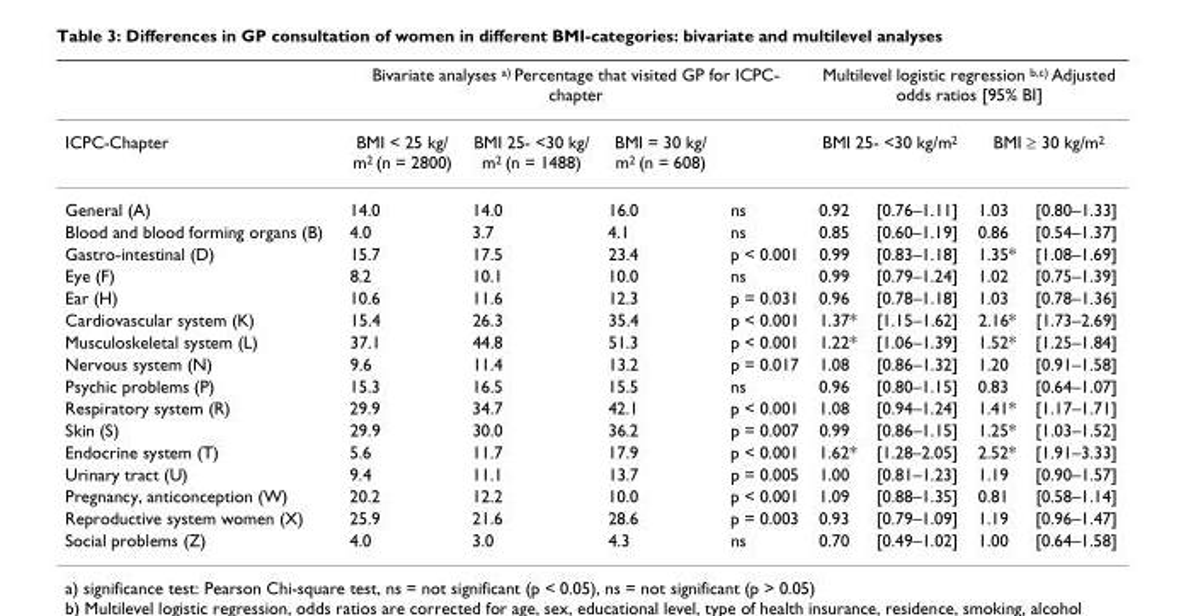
<table><thead><tr><td rowspan="3">ICPC-Chapter General (A)</td><td colspan="4">Bivariate analyses a) Percentage that visited GP for ICPC- chapter</td><td colspan="4">Multilevel logistic regression b,c) Adjusted odds ratios [95% BI]</td></tr><tr><td rowspan="2">BMI &lt; 25 kg/ m2 (n = 2800) 14.0</td><td rowspan="2">BMI 25- &lt;30 kg/ m2 (n = 1488) 14.0</td><td rowspan="2">BMI = 30 kg/ m2 (n = 608) 16.0</td><td rowspan="2">ns</td><td colspan="2">BMI 25- &lt;30 kg/m2</td><td colspan="2">BMI ≥ 30 kg/m2</td></tr><tr><td>0.92</td><td>[0.76–1.11]</td><td>1.03</td><td>[0.80–1.33]</td></tr></thead><tbody><tr><td>Blood and blood forming organs (B)</td><td>4.0</td><td>3.7</td><td>4.1</td><td>ns</td><td>0.85</td><td>[0.60–1.19]</td><td>0.86</td><td>[0.54–1.37]</td></tr><tr><td>Gastro-intestinal (D)</td><td>15.7</td><td>17.5</td><td>23.4</td><td>p &lt; 0.001</td><td>0.99</td><td>[0.83–1.18]</td><td>1.35*</td><td>[1.08–1.69]</td></tr><tr><td>Eye (F)</td><td>8.2</td><td>10.1</td><td>10.0</td><td>ns</td><td>0.99</td><td>[0.79–1.24]</td><td>1.02</td><td>[0.75–1.39]</td></tr><tr><td>Ear (H)</td><td>10.6</td><td>11.6</td><td>12.3</td><td>p = 0.031</td><td>0.96</td><td>[0.78–1.18]</td><td>1.03</td><td>[0.78–1.36]</td></tr><tr><td>Cardiovascular system (K)</td><td>15.4</td><td>26.3</td><td>35.4</td><td>p &lt; 0.001</td><td>1.37*</td><td>[1.15–1.62]</td><td>2.16*</td><td>[1.73–2.69]</td></tr><tr><td>Musculoskeletal system (L)</td><td>37.1</td><td>44.8</td><td>51.3</td><td>p &lt; 0.001</td><td>1.22*</td><td>[1.06–1.39]</td><td>1.52*</td><td>[1.25–1.84]</td></tr><tr><td>Nervous system (N)</td><td>9.6</td><td>11.4</td><td>13.2</td><td>p = 0.017</td><td>1.08</td><td>[0.86–1.32]</td><td>1.20</td><td>[0.91–1.58]</td></tr><tr><td>Psychic problems (P)</td><td>15.3</td><td>16.5</td><td>15.5</td><td>ns</td><td>0.96</td><td>[0.80–1.15]</td><td>0.83</td><td>[0.64–1.07]</td></tr><tr><td>Respiratory system (R)</td><td>29.9</td><td>34.7</td><td>42.1</td><td>p &lt; 0.001</td><td>1.08</td><td>[0.94–1.24]</td><td>1.41*</td><td>[1.17–1.71]</td></tr><tr><td>Skin (S)</td><td>29.9</td><td>30.0</td><td>36.2</td><td>p = 0.007</td><td>0.99</td><td>[0.86–1.15]</td><td>1.25*</td><td>[1.03–1.52]</td></tr><tr><td>Endocrine system (T)</td><td>5.6</td><td>11.7</td><td>17.9</td><td>p &lt; 0.001</td><td>1.62*</td><td>[1.28–2.05]</td><td>2.52*</td><td>[1.91–3.33]</td></tr><tr><td>Urinary tract (U)</td><td>9.4</td><td>11.1</td><td>13.7</td><td>p = 0.005</td><td>1.00</td><td>[0.81–1.23]</td><td>1.19</td><td>[0.90–1.57]</td></tr><tr><td>Pregnancy, anticonception (W)</td><td>20.2</td><td>12.2</td><td>10.0</td><td>p &lt; 0.001</td><td>1.09</td><td>[0.88–1.35]</td><td>0.81</td><td>[0.58–1.14]</td></tr><tr><td>Reproductive system women (X)</td><td>25.9</td><td>21.6</td><td>28.6</td><td>p = 0.003</td><td>0.93</td><td>[0.79–1.09]</td><td>1.19</td><td>[0.96–1.47]</td></tr><tr><td>Social problems (Z)</td><td>4.0</td><td>3.0</td><td>4.3</td><td>ns</td><td>0.70</td><td>[0.49–1.02]</td><td>1.00</td><td>[0.64–1.58]</td></tr></tbody></table>